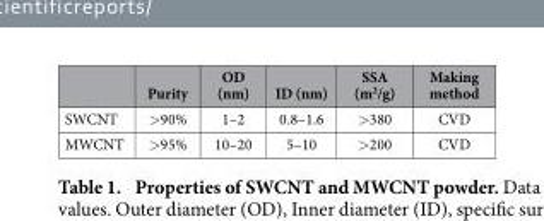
<table><thead><tr><td></td><td>Purity</td><td>OD (nm)</td><td>ID (nm)</td><td>SSA (m<sup>2</sup>/g)</td><td>Making method</td></tr></thead><tbody><tr><td>SWCNT</td><td>&gt; 90%</td><td>1–2</td><td>0.8–1.6</td><td>&gt; 380</td><td>CVD</td></tr><tr><td>MWCNT</td><td>&gt; 95%</td><td>10–20</td><td>5–10</td><td>&gt; 200</td><td>CVD</td></tr></tbody></table>